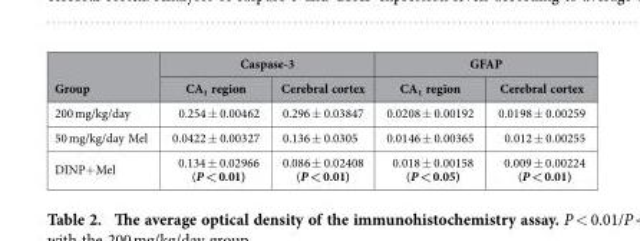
<table><thead><tr><td rowspan="2">Group</td><td colspan="2">Caspase-3</td><td colspan="2">GFAP</td></tr><tr><td>CA<sub>1</sub> region</td><td>Cerebral cortex</td><td>CA<sub>1</sub> region</td><td>Cerebral cortex</td></tr></thead><tbody><tr><td>200 mg/kg/day</td><td>0.254 ± 0.00462</td><td>0.296 ± 0.03847</td><td>0.0208 ± 0.00192</td><td>0.0198 ± 0.00259</td></tr><tr><td>50 mg/kg/day Mel</td><td>0.0422 ± 0.00327</td><td>0.136 ± 0.0305</td><td>0.0146 ± 0.00365</td><td>0.012 ± 0.00255</td></tr><tr><td>DINP+ Mel</td><td>0.134 ± 0.02966 (P &lt; 0.01)</td><td>0.086 ± 0.02408 (P &lt; 0.01)</td><td>0.018 ± 0.00158 (P &lt; 0.05)</td><td>0.009 ± 0.00224 (P &lt; 0.01)</td></tr></tbody></table>